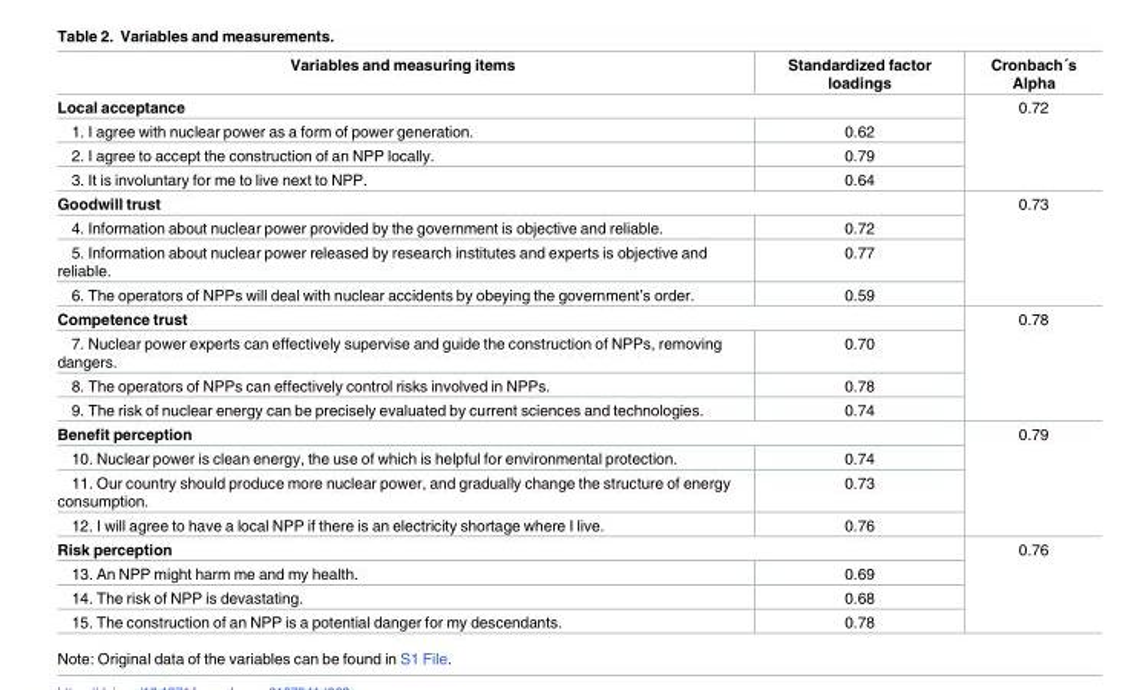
<table><thead><tr><td>Variables and measuring items</td><td>Standardized factor loadings</td><td>Cronbach´s Alpha</td></tr></thead><tbody><tr><td colspan="2">Local acceptance</td><td rowspan="4">0.72</td></tr><tr><td>1. I agree with nuclear power as a form of power generation.</td><td>0.62</td></tr><tr><td>2. I agree to accept the construction of an NPP locally.</td><td>0.79</td></tr><tr><td>3. It is involuntary for me to live next to NPP.</td><td>0.64</td></tr><tr><td colspan="2">Goodwill trust</td><td rowspan="4">0.73</td></tr><tr><td>4. Information about nuclear power provided by the government is objective and reliable.</td><td>0.72</td></tr><tr><td>5. Information about nuclear power released by research institutes and experts is objective and reliable.</td><td>0.77</td></tr><tr><td>6. The operators of NPPs will deal with nuclear accidents by obeying the government’s order.</td><td>0.59</td></tr><tr><td colspan="2">Competence trust</td><td rowspan="4">0.78</td></tr><tr><td>7. Nuclear power experts can effectively supervise and guide the construction of NPPs, removing dangers.</td><td>0.70</td></tr><tr><td>8. The operators of NPPs can effectively control risks involved in NPPs.</td><td>0.78</td></tr><tr><td>9. The risk of nuclear energy can be precisely evaluated by current sciences and technologies.</td><td>0.74</td></tr><tr><td colspan="2">Benefit perception</td><td rowspan="4">0.79</td></tr><tr><td>10. Nuclear power is clean energy, the use of which is helpful for environmental protection.</td><td>0.74</td></tr><tr><td>11. Our country should produce more nuclear power, and gradually change the structure of energy consumption.</td><td>0.73</td></tr><tr><td>12. I will agree to have a local NPP if there is an electricity shortage where I live.</td><td>0.76</td></tr><tr><td colspan="2">Risk perception</td><td rowspan="4">0.76</td></tr><tr><td>13. An NPP might harm me and my health.</td><td>0.69</td></tr><tr><td>14. The risk of NPP is devastating.</td><td>0.68</td></tr><tr><td>15. The construction of an NPP is a potential danger for my descendants.</td><td>0.78</td></tr></tbody></table>